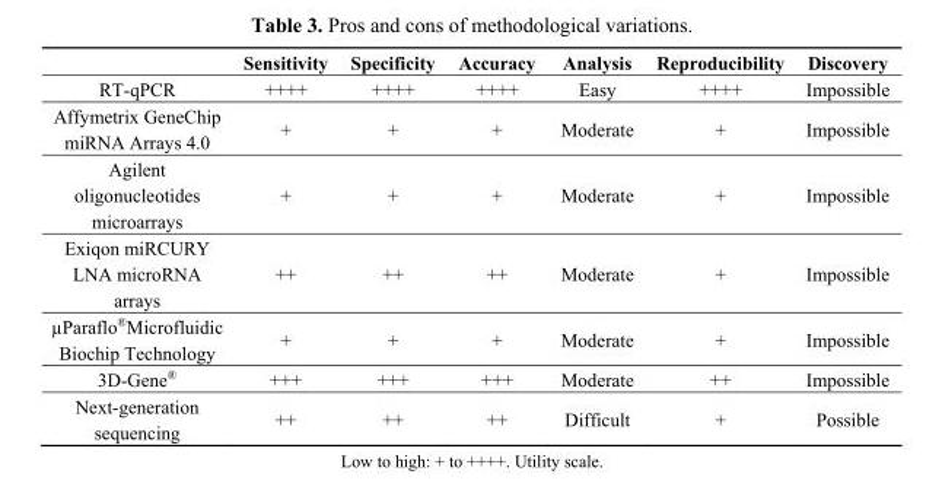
<table><thead><tr><td></td><td>Sensitivity</td><td>Specificity</td><td>Accuracy</td><td>Analysis</td><td>Reproducibility</td><td>Discovery</td></tr></thead><tbody><tr><td>RT-qPCR</td><td>++++</td><td>++++</td><td>++++</td><td>Easy</td><td>++++</td><td>Impossible</td></tr><tr><td>Affymetrix GeneChip miRNA Arrays 4.0</td><td>+</td><td>+</td><td>+</td><td>Moderate</td><td>+</td><td>Impossible</td></tr><tr><td>Agilent oligonucleotides microarrays</td><td>+</td><td>+</td><td>+</td><td>Moderate</td><td>+</td><td>Impossible</td></tr><tr><td>Exiqon miRCURY LNA microRNA arrays</td><td>++</td><td>++</td><td>++</td><td>Moderate</td><td>+</td><td>Impossible</td></tr><tr><td>µParaflo<sup>®</sup>Microfluidic Biochip Technology</td><td>+</td><td>+</td><td>+</td><td>Moderate</td><td>+</td><td>Impossible</td></tr><tr><td>3D-Gene<sup>®</sup></td><td>+++</td><td>+++</td><td>+++</td><td>Moderate</td><td>++</td><td>Impossible</td></tr><tr><td>Next-generation sequencing</td><td>++</td><td>++</td><td>++</td><td>Difficult</td><td>+</td><td>Possible</td></tr></tbody></table>